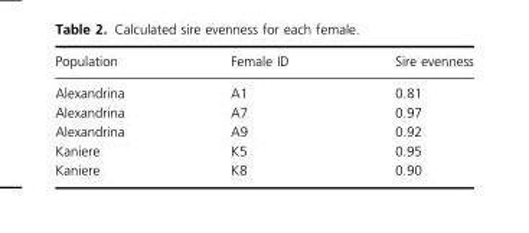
<table><thead><tr><td>Population</td><td>Female ID</td><td>Sire evenness</td></tr></thead><tbody><tr><td>Alexandrina</td><td>A1</td><td>0.81</td></tr><tr><td>Alexandrina</td><td>A7</td><td>0.97</td></tr><tr><td>Alexandrina</td><td>A9</td><td>0.92</td></tr><tr><td>Kaniere</td><td>K5</td><td>0.95</td></tr><tr><td>Kaniere</td><td>K8</td><td>0.90</td></tr></tbody></table>